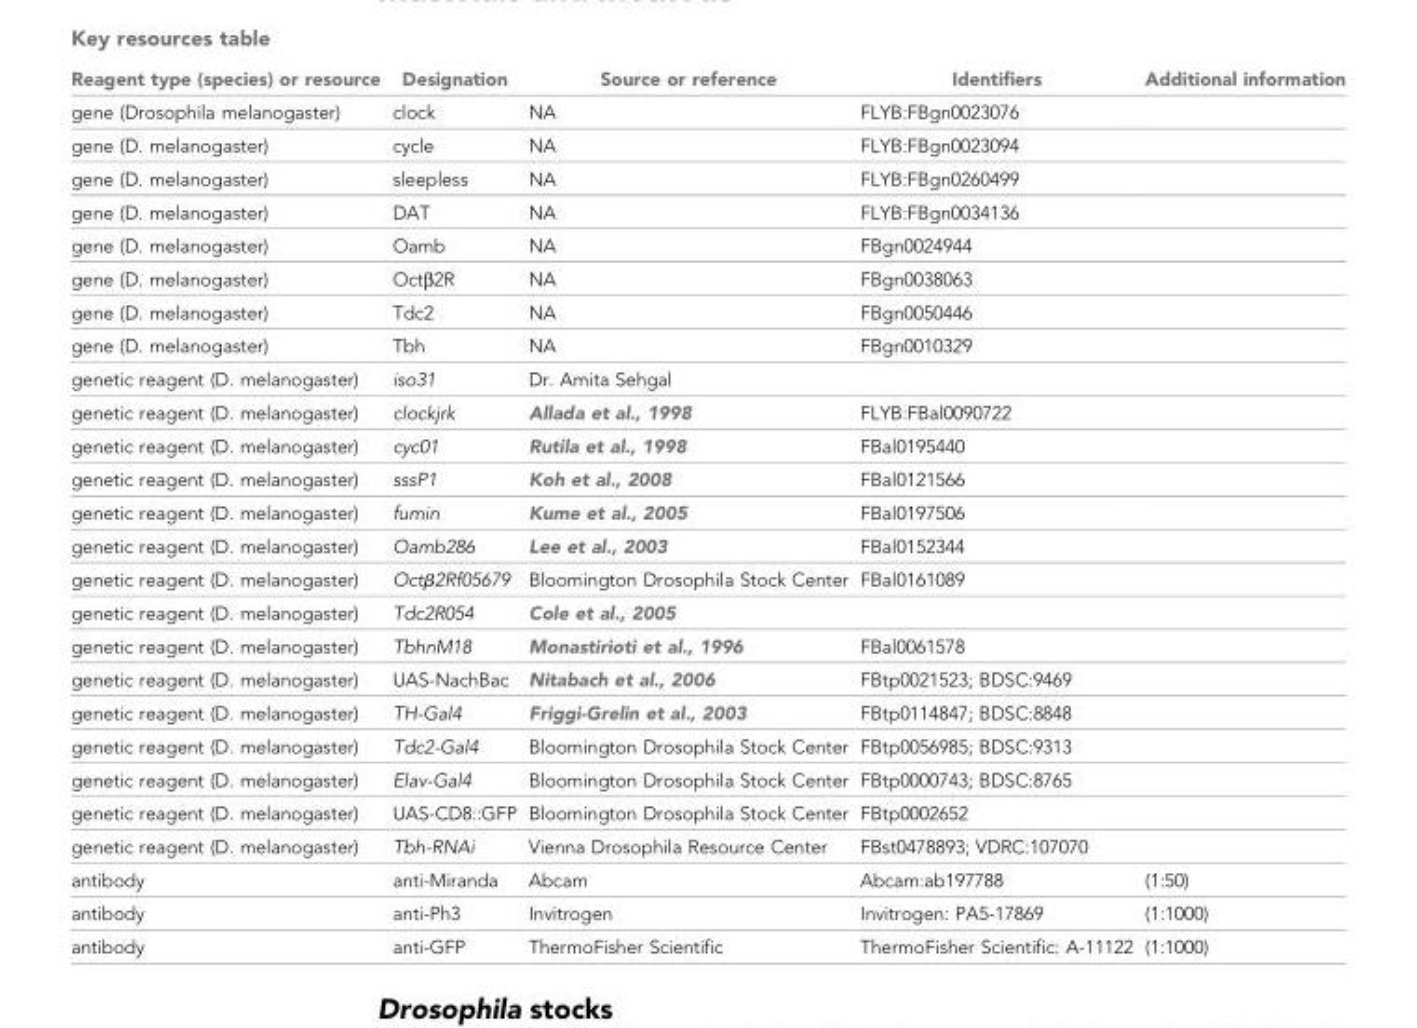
<table><thead><tr><td>Reagent type (species) or resource</td><td>Designation</td><td>Source or reference</td><td>Identifiers</td><td>Additional information</td></tr></thead><tbody><tr><td>gene (Drosophila melanogaster)</td><td>clock</td><td>NA</td><td>FLYB:FBgn0023076</td><td></td></tr><tr><td>gene (D. melanogaster)</td><td>cycle</td><td>NA</td><td>FLYB:FBgn0023094</td><td></td></tr><tr><td>gene (D. melanogaster)</td><td>sleepless</td><td>NA</td><td>FLYB:FBgn0260499</td><td></td></tr><tr><td>gene (D. melanogaster)</td><td>DAT</td><td>NA</td><td>FLYB:FBgn0034136</td><td></td></tr><tr><td>gene (D. melanogaster)</td><td>Oamb</td><td>NA</td><td>FBgn0024944</td><td></td></tr><tr><td>gene (D. melanogaster)</td><td>Octβ2R</td><td>NA</td><td>FBgn0038063</td><td></td></tr><tr><td>gene (D. melanogaster)</td><td>Tdc2</td><td>NA</td><td>FBgn0050446</td><td></td></tr><tr><td>gene (D. melanogaster)</td><td>Tbh</td><td>NA</td><td>FBgn0010329</td><td></td></tr><tr><td>genetic reagent (D. melanogaster)</td><td>iso31</td><td>Dr. Amita Sehgal</td><td></td><td></td></tr><tr><td>genetic reagent (D. melanogaster)</td><td>clockjrk</td><td>Allada et al., 1998</td><td>FLYB:FBal0090722</td><td></td></tr><tr><td>genetic reagent (D. melanogaster)</td><td>cyc01</td><td>Rutila et al., 1998</td><td>FBal0195440</td><td></td></tr><tr><td>genetic reagent (D. melanogaster)</td><td>sssP1</td><td>Koh et al., 2008</td><td>FBal0121566</td><td></td></tr><tr><td>genetic reagent (D. melanogaster)</td><td>fumin</td><td>Kume et al., 2005</td><td>FBal0197506</td><td></td></tr><tr><td>genetic reagent (D. melanogaster)</td><td>Oamb286</td><td>Lee et al., 2003</td><td>FBal0152344</td><td></td></tr><tr><td>genetic reagent (D. melanogaster)</td><td>Octβ2Rf05679</td><td>Bloomington Drosophila Stock Center</td><td>FBal0161089</td><td></td></tr><tr><td>genetic reagent (D. melanogaster)</td><td>Tdc2R054</td><td>Cole et al., 2005</td><td></td><td></td></tr><tr><td>genetic reagent (D. melanogaster)</td><td>TbhnM18</td><td>Monastirioti et al., 1996</td><td>FBal0061578</td><td></td></tr><tr><td>genetic reagent (D. melanogaster)</td><td>UAS-NachBac</td><td>Nitabach et al., 2006</td><td>FBtp0021523; BDSC:9469</td><td></td></tr><tr><td>genetic reagent (D. melanogaster)</td><td>TH-Gal4</td><td>Friggi-Grelin et al., 2003</td><td>FBtp0114847; BDSC:8848</td><td></td></tr><tr><td>genetic reagent (D. melanogaster)</td><td>Tdc2-Gal4</td><td>Bloomington Drosophila Stock Center</td><td>FBtp0056985; BDSC:9313</td><td></td></tr><tr><td>genetic reagent (D. melanogaster)</td><td>Elav-Gal4</td><td>Bloomington Drosophila Stock Center</td><td>FBtp0000743; BDSC:8765</td><td></td></tr><tr><td>genetic reagent (D. melanogaster)</td><td>UAS-CD8::GFP</td><td>Bloomington Drosophila Stock Center</td><td>FBtp0002652</td><td></td></tr><tr><td>genetic reagent (D. melanogaster)</td><td>Tbh-RNAi</td><td>Vienna Drosophila Resource Center</td><td>FBst0478893; VDRC:107070</td><td></td></tr><tr><td>antibody</td><td>anti-Miranda</td><td>Abcam</td><td>Abcam:ab197788</td><td>(1:50)</td></tr><tr><td>antibody</td><td>anti-Ph3</td><td>Invitrogen</td><td>Invitrogen: PA5-17869</td><td>(1:1000)</td></tr><tr><td>antibody</td><td>anti-GFP</td><td>ThermoFisher Scientific</td><td>ThermoFisher Scientific: A-11122</td><td>(1:1000)</td></tr></tbody></table>